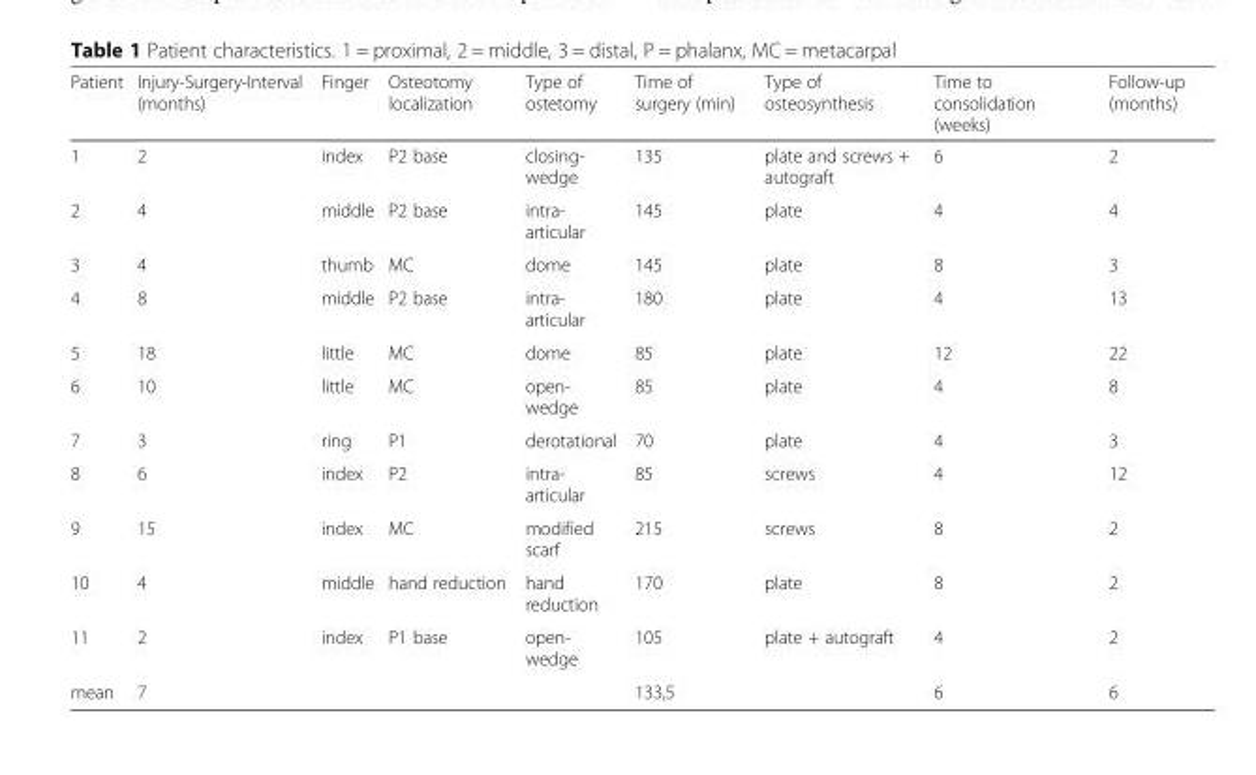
<table><thead><tr><td>Patient</td><td>Injury-Surgery-Interval (months)</td><td>Finger</td><td>Osteotomy localization</td><td>Type of ostetomy</td><td>Time of surgery (min)</td><td>Type of osteosynthesis</td><td>Time to consolidation (weeks)</td><td>Follow-up (months)</td></tr></thead><tbody><tr><td>1</td><td>2</td><td>index</td><td>P2 base</td><td>closing- wedge</td><td>135</td><td>plate and screws + autograft</td><td>6</td><td>2</td></tr><tr><td>2</td><td>4</td><td>middle</td><td>P2 base</td><td>intra- articular</td><td>145</td><td>plate</td><td>4</td><td>4</td></tr><tr><td>3</td><td>4</td><td>thumb</td><td>MC</td><td>dome</td><td>145</td><td>plate</td><td>8</td><td>3</td></tr><tr><td>4</td><td>8</td><td>middle</td><td>P2 base</td><td>intra- articular</td><td>180</td><td>plate</td><td>4</td><td>13</td></tr><tr><td>5</td><td>18</td><td>little</td><td>MC</td><td>dome</td><td>85</td><td>plate</td><td>12</td><td>22</td></tr><tr><td>6</td><td>10</td><td>little</td><td>MC</td><td>open- wedge</td><td>85</td><td>plate</td><td>4</td><td>8</td></tr><tr><td>7</td><td>3</td><td>ring</td><td>P1</td><td>derotational</td><td>70</td><td>plate</td><td>4</td><td>3</td></tr><tr><td>8</td><td>6</td><td>index</td><td>P2</td><td>intra- articular</td><td>85</td><td>screws</td><td>4</td><td>12</td></tr><tr><td>9</td><td>15</td><td>index</td><td>MC</td><td>modified scarf</td><td>215</td><td>screws</td><td>8</td><td>2</td></tr><tr><td>10</td><td>4</td><td>middle</td><td>hand reduction</td><td>hand reduction</td><td>170</td><td>plate</td><td>8</td><td>2</td></tr><tr><td>11</td><td>2</td><td>index</td><td>P1 base</td><td>open- wedge</td><td>105</td><td>plate + autograft</td><td>4</td><td>2</td></tr><tr><td>mean</td><td>7</td><td></td><td></td><td></td><td>133,5</td><td></td><td>6</td><td>6</td></tr></tbody></table>